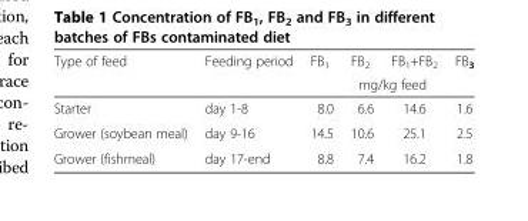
<table><thead><tr><td rowspan="2">Type of feed</td><td rowspan="2">Feeding period</td><td>FB<sub>1</sub></td><td>FB<sub>2</sub></td><td>FB<sub>1</sub>+FB<sub>2</sub></td><td>FB<sub>3</sub></td></tr><tr><td colspan="4">mg/kg feed</td></tr></thead><tbody><tr><td>Starter</td><td>day 1-8</td><td>8.0</td><td>6.6</td><td>14.6</td><td>1.6</td></tr><tr><td>Grower (soybean meal)</td><td>day 9-16</td><td>14.5</td><td>10.6</td><td>25.1</td><td>2.5</td></tr><tr><td>Grower (fishmeal)</td><td>day 17-end</td><td>8.8</td><td>7.4</td><td>16.2</td><td>1.8</td></tr></tbody></table>